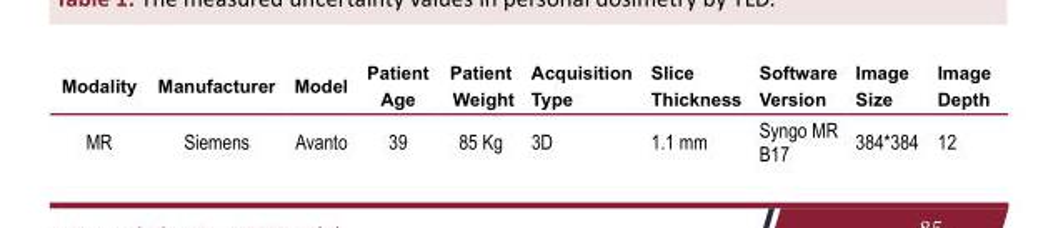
<table><thead><tr><td>Modality</td><td>Manufacturer</td><td>Model</td><td>Patient Age</td><td>Patient Weight</td><td>Acquisition Type</td><td>Slice Thickness</td><td>Software Version</td><td>Image Size</td><td>Image Depth</td></tr></thead><tbody><tr><td>MR</td><td>Siemens</td><td>Avanto</td><td>39</td><td>85 Kg</td><td>3D</td><td>1.1 mm</td><td>Syngo MR B17</td><td>384*384</td><td>12</td></tr></tbody></table>